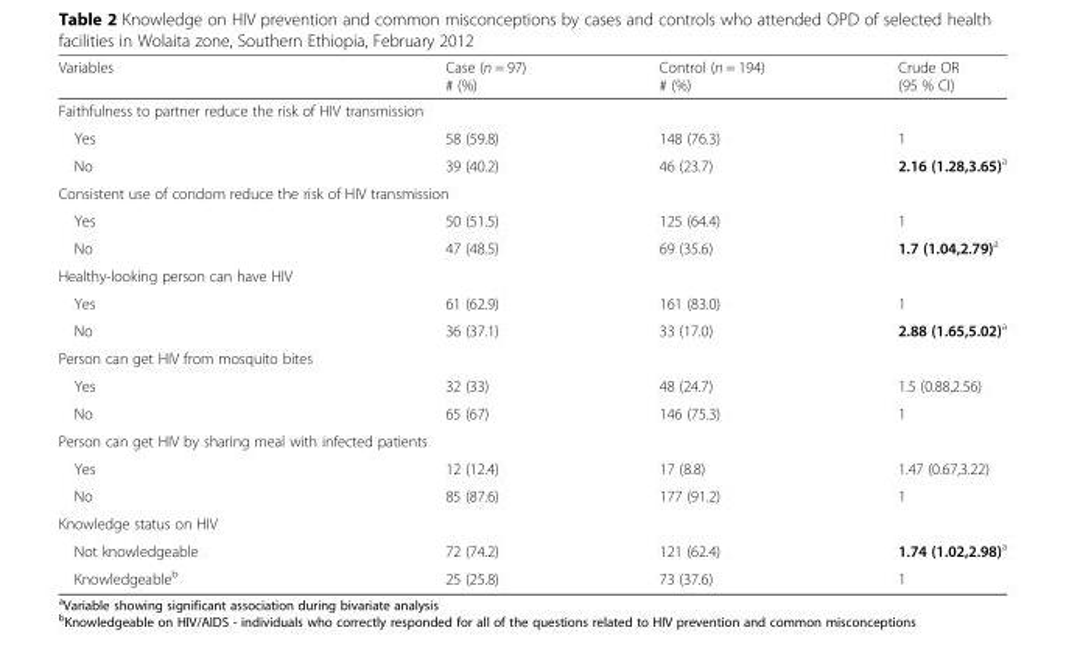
<table><thead><tr><td>Variables</td><td>Case (n = 97) # (%)</td><td>Control (n = 194) # (%)</td><td>Crude OR (95 % CI)</td></tr></thead><tbody><tr><td colspan="4">Faithfulness to partner reduce the risk of HIV transmission</td></tr><tr><td>Yes</td><td>58 (59.8)</td><td>148 (76.3)</td><td>1</td></tr><tr><td>No</td><td>39 (40.2)</td><td>46 (23.7)</td><td>2.16 (1.28,3.65)<sup>a</sup></td></tr><tr><td colspan="4">Consistent use of condom reduce the risk of HIV transmission</td></tr><tr><td>Yes</td><td>50 (51.5)</td><td>125 (64.4)</td><td>1</td></tr><tr><td>No</td><td>47 (48.5)</td><td>69 (35.6)</td><td>1.7 (1.04,2.79)<sup>a</sup></td></tr><tr><td colspan="4">Healthy-looking person can have HIV</td></tr><tr><td>Yes</td><td>61 (62.9)</td><td>161 (83.0)</td><td>1</td></tr><tr><td>No</td><td>36 (37.1)</td><td>33 (17.0)</td><td>2.88 (1.65,5.02)<sup>a</sup></td></tr><tr><td colspan="4">Person can get HIV from mosquito bites</td></tr><tr><td>Yes</td><td>32 (33)</td><td>48 (24.7)</td><td>1.5 (0.88,2.56)</td></tr><tr><td>No</td><td>65 (67)</td><td>146 (75.3)</td><td>1</td></tr><tr><td colspan="4">Person can get HIV by sharing meal with infected patients</td></tr><tr><td>Yes</td><td>12 (12.4)</td><td>17 (8.8)</td><td>1.47 (0.67,3.22)</td></tr><tr><td>No</td><td>85 (87.6)</td><td>177 (91.2)</td><td>1</td></tr><tr><td colspan="4">Knowledge status on HIV</td></tr><tr><td>Not knowledgeable</td><td>72 (74.2)</td><td>121 (62.4)</td><td>1.74 (1.02,2.98)<sup>a</sup></td></tr><tr><td>Knowledgeable<sup>b</sup></td><td>25 (25.8)</td><td>73 (37.6)</td><td>1</td></tr></tbody></table>